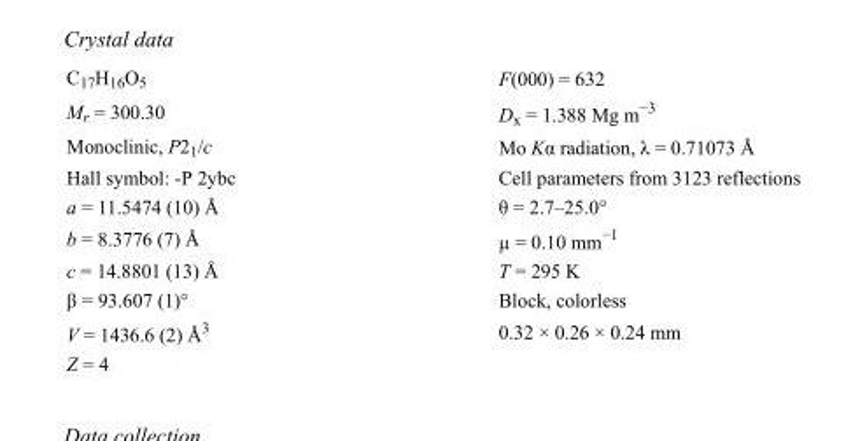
<table><tbody><tr><td>C<sub>17</sub>H<sub>16</sub>O<sub>5</sub></td><td>F(000) = 632</td></tr><tr><td>M<sub>r</sub> = 300.30</td><td>D<sub>x</sub> = 1.388 Mg m<sup>−3</sup></td></tr><tr><td>Monoclinic, P2<sub>1</sub>/c</td><td>Mo Kα radiation, λ = 0.71073 Å</td></tr><tr><td>Hall symbol: -P 2ybc</td><td>Cell parameters from 3123 reflections</td></tr><tr><td>a = 11.5474 (10) Å</td><td>θ = 2.7–25.0°</td></tr><tr><td>b = 8.3776 (7) Å</td><td>µ = 0.10 mm<sup>−1</sup></td></tr><tr><td>c = 14.8801 (13) Å</td><td>T = 295 K</td></tr><tr><td>β = 93.607 (1)°</td><td>Block, colorless</td></tr><tr><td>V = 1436.6 (2) Å<sup>3</sup></td><td>0.32 × 0.26 × 0.24 mm</td></tr><tr><td>Z = 4</td><td></td></tr></tbody></table>